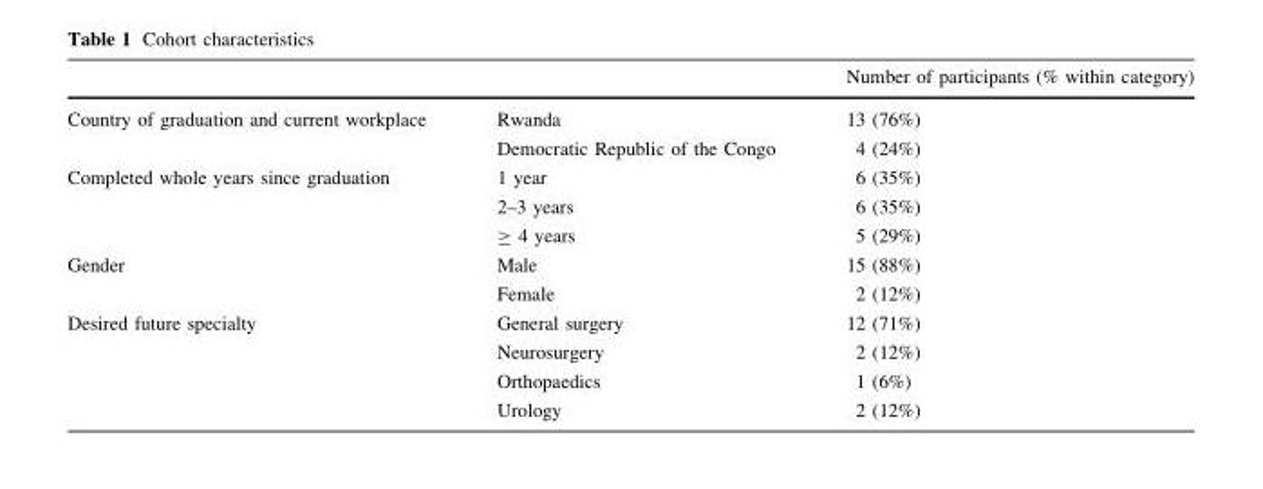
<table><thead><tr><td></td><td></td><td>Number of participants (% within category)</td></tr></thead><tbody><tr><td rowspan="2">Country of graduation and current workplace</td><td>Rwanda</td><td>13 (76%)</td></tr><tr><td>Democratic Republic of the Congo</td><td>4 (24%)</td></tr><tr><td rowspan="3">Completed whole years since graduation</td><td>1 year</td><td>6 (35%)</td></tr><tr><td>2–3 years</td><td>6 (35%)</td></tr><tr><td>≥ 4 years</td><td>5 (29%)</td></tr><tr><td rowspan="2">Gender</td><td>Male</td><td>15 (88%)</td></tr><tr><td>Female</td><td>2 (12%)</td></tr><tr><td rowspan="4">Desired future specialty</td><td>General surgery</td><td>12 (71%)</td></tr><tr><td>Neurosurgery</td><td>2 (12%)</td></tr><tr><td>Orthopaedics</td><td>1 (6%)</td></tr><tr><td>Urology</td><td>2 (12%)</td></tr></tbody></table>